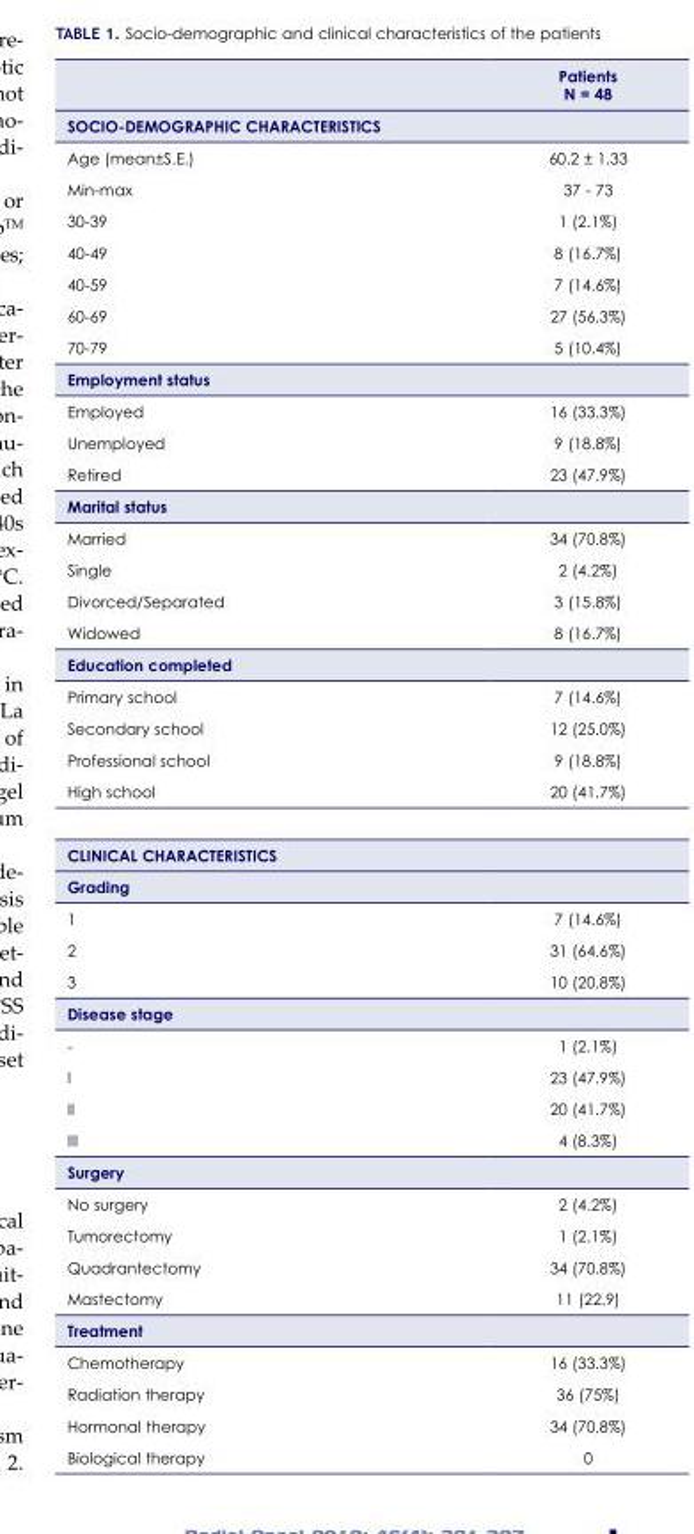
<table><thead><tr><td></td><td>Patients N = 48</td></tr></thead><tbody><tr><td colspan="2">SOCIO-DEMOGRAPHIC CHARACTERISTICS</td></tr><tr><td>Age (mean±S.E.)</td><td>60.2 ± 1.33</td></tr><tr><td>Min-max</td><td>37 - 73</td></tr><tr><td>30-39</td><td>1 (2.1%)</td></tr><tr><td>40-49</td><td>8 (16.7%)</td></tr><tr><td>40-59</td><td>7 (14.6%)</td></tr><tr><td>60-69</td><td>27 (56.3%)</td></tr><tr><td>70-79</td><td>5 (10.4%)</td></tr><tr><td colspan="2">Employment status</td></tr><tr><td>Employed</td><td>16 (33.3%)</td></tr><tr><td>Unemployed</td><td>9 (18.8%)</td></tr><tr><td>Retired</td><td>23 (47.9%)</td></tr><tr><td colspan="2">Marital status</td></tr><tr><td>Married</td><td>34 (70.8%)</td></tr><tr><td>Single</td><td>2 (4.2%)</td></tr><tr><td>Divorced/Separated</td><td>3 (15.8%)</td></tr><tr><td>Widowed</td><td>8 (16.7%)</td></tr><tr><td colspan="2">Education completed</td></tr><tr><td>Primary school</td><td>7 (14.6%)</td></tr><tr><td>Secondary school</td><td>12 (25.0%)</td></tr><tr><td>Professional school</td><td>9 (18.8%)</td></tr><tr><td>High school</td><td>20 (41.7%)</td></tr><tr><td colspan="2">ClINICAl CHARACTERISTICS</td></tr><tr><td colspan="2">Grading</td></tr><tr><td>1</td><td>7 (14.6%)</td></tr><tr><td>2</td><td>31 (64.6%)</td></tr><tr><td>3</td><td>10 (20.8%)</td></tr><tr><td colspan="2">Disease stage</td></tr><tr><td>-</td><td>1 (2.1%)</td></tr><tr><td>I</td><td>23 (47.9%)</td></tr><tr><td>II</td><td>20 (41.7%)</td></tr><tr><td>III</td><td>4 (8.3%)</td></tr><tr><td colspan="2">Surgery</td></tr><tr><td>No surgery</td><td>2 (4.2%)</td></tr><tr><td>Tumorectomy</td><td>1 (2.1%)</td></tr><tr><td>Quadrantectomy</td><td>34 (70.8%)</td></tr><tr><td>Mastectomy</td><td>11 (22.9)</td></tr><tr><td colspan="2">Treatment</td></tr><tr><td>Chemotherapy</td><td>16 (33.3%)</td></tr><tr><td>Radiation therapy</td><td>36 (75%)</td></tr><tr><td>Hormonal therapy</td><td>34 (70.8%)</td></tr><tr><td>Biological therapy</td><td>0</td></tr></tbody></table>